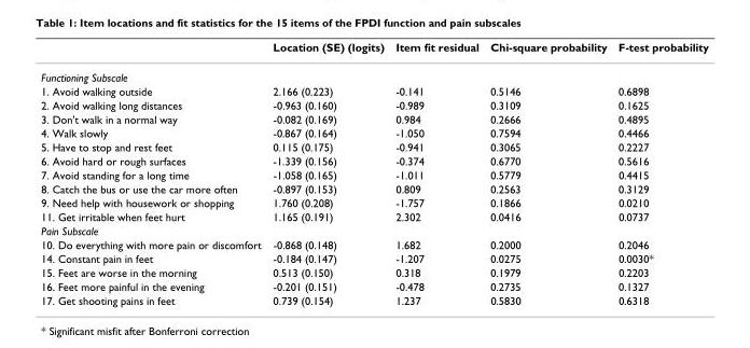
<table><thead><tr><td></td><td>Location (SE) (logits)</td><td>Item fit residual</td><td>Chi-square probability</td><td>F-test probability</td></tr></thead><tbody><tr><td colspan="5">Functioning Subscale</td></tr><tr><td>1. Avoid walking outside</td><td>2.166 (0.223)</td><td>-0.141</td><td>0.5146</td><td>0.6898</td></tr><tr><td>2. Avoid walking long distances</td><td>-0.963 (0.160)</td><td>-0.989</td><td>0.3109</td><td>0.1625</td></tr><tr><td>3. Don&#x27;t walk in a normal way</td><td>-0.082 (0.169)</td><td>0.984</td><td>0.2666</td><td>0.4895</td></tr><tr><td>4. Walk slowly</td><td>-0.867 (0.164)</td><td>-1.050</td><td>0.7594</td><td>0.4466</td></tr><tr><td>5. Have to stop and rest feet</td><td>0.115 (0.175)</td><td>-0.941</td><td>0.3065</td><td>0.2227</td></tr><tr><td>6. Avoid hard or rough surfaces</td><td>-1.339 (0.156)</td><td>-0.374</td><td>0.6770</td><td>0.5616</td></tr><tr><td>7. Avoid standing for a long time</td><td>-1.058 (0.165)</td><td>-1.011</td><td>0.5779</td><td>0.4415</td></tr><tr><td>8. Catch the bus or use the car more often</td><td>-0.897 (0.153)</td><td>0.809</td><td>0.2563</td><td>0.3129</td></tr><tr><td>9. Need help with housework or shopping</td><td>1.760 (0.208)</td><td>-1.757</td><td>0.1866</td><td>0.0210</td></tr><tr><td>11. Get irritable when feet hurt</td><td>1.165 (0.191)</td><td>2.302</td><td>0.0416</td><td>0.0737</td></tr><tr><td colspan="5">Pain Subscale</td></tr><tr><td>10. Do everything with more pain or discomfort</td><td>-0.868 (0.148)</td><td>1.682</td><td>0.2000</td><td>0.2046</td></tr><tr><td>14. Constant pain in feet</td><td>-0.184 (0.147)</td><td>-1.207</td><td>0.0275</td><td>0.0030*</td></tr><tr><td>15. Feet are worse in the morning</td><td>0.513 (0.150)</td><td>0.318</td><td>0.1979</td><td>0.2203</td></tr><tr><td>16. Feet more painful in the evening</td><td>-0.201 (0.151)</td><td>-0.478</td><td>0.2735</td><td>0.1327</td></tr><tr><td>17. Get shooting pains in feet</td><td>0.739 (0.154)</td><td>1.237</td><td>0.5830</td><td>0.6318</td></tr></tbody></table>